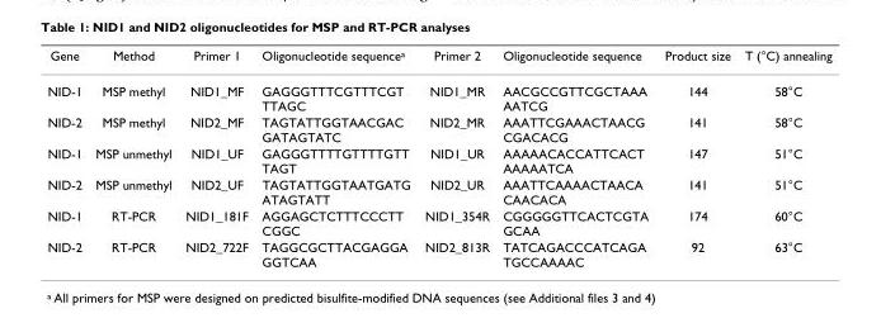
<table><thead><tr><td>Gene</td><td>Method</td><td>Primer 1</td><td>Oligonucleotide sequence<sup>a</sup></td><td>Primer 2</td><td>Oligonucleotide sequence</td><td>Product size</td><td>T (°C) annealing</td></tr></thead><tbody><tr><td>NID-1</td><td>MSP methyl</td><td>NID1_MF</td><td>GAGGGTTTCGTTTCGT TTAGC</td><td>NID1_MR</td><td>AACGCCGTTCGCTAAA AATCG</td><td>144</td><td>58°C</td></tr><tr><td>NID-2</td><td>MSP methyl</td><td>NID2_MF</td><td>TAGTATTGGTAACGAC GATAGTATC</td><td>NID2_MR</td><td>AAATTCGAAACTAACG CGACACG</td><td>141</td><td>58°C</td></tr><tr><td>NID-1</td><td>MSP unmethyl</td><td>NID1_UF</td><td>GAGGGTTTTGTTTTGTT TAGT</td><td>NID1_UR</td><td>AAAAACACCATTCACT AAAAATCA</td><td>147</td><td>51°C</td></tr><tr><td>NID-2</td><td>MSP unmethyl</td><td>NID2_UF</td><td>TAGTATTGGTAATGATG ATAGTATT</td><td>NID2_UR</td><td>AAATTCAAAACTAACA CAACACA</td><td>141</td><td>51°C</td></tr><tr><td>NID-1</td><td>RT-PCR</td><td>NID1_181F</td><td>AGGAGCTCTTTCCCTT CGGC</td><td>NID1_354R</td><td>CGGGGGTTCACTCGTA GCAA</td><td>174</td><td>60°C</td></tr><tr><td>NID-2</td><td>RT-PCR</td><td>NID2_722F</td><td>TAGGCGCTTACGAGGA GGTCAA</td><td>NID2_813R</td><td>TATCAGACCCATCAGA TGCCAAAAC</td><td>92</td><td>63°C</td></tr></tbody></table>